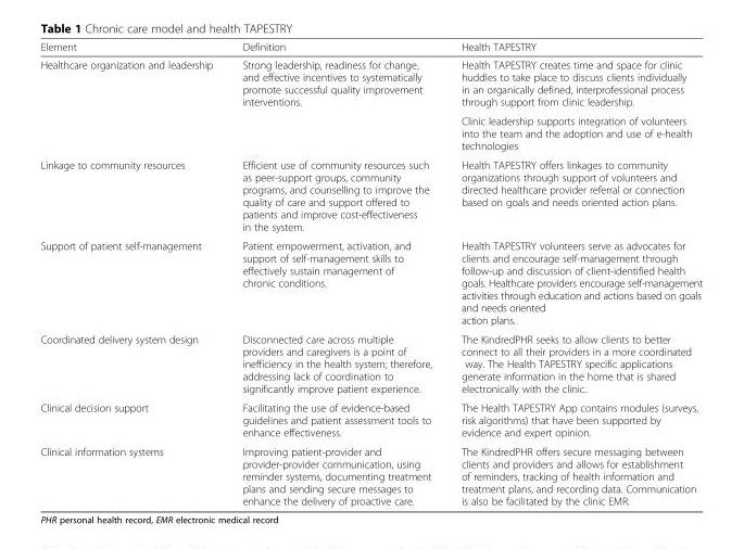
<table><thead><tr><td>Element</td><td>Definition</td><td>Health TAPESTRY</td></tr></thead><tbody><tr><td rowspan="2">Healthcare organization and leadership</td><td rowspan="2">Strong leadership, readiness for change, and effective incentives to systematically promote successful quality improvement interventions.</td><td>Health TAPESTRY creates time and space for clinic huddles to take place to discuss clients individually in an organically defined, interprofessional process through support from clinic leadership.</td></tr><tr><td>Clinic leadership supports integration of volunteers into the team and the adoption and use of e-health technologies</td></tr><tr><td>Linkage to community resources</td><td>Efficient use of community resources such as peer-support groups, community programs, and counselling to improve the quality of care and support offered to patients and improve cost-effectiveness in the system.</td><td>Health TAPESTRY offers linkages to community organizations through support of volunteers and directed healthcare provider referral or connection based on goals and needs oriented action plans.</td></tr><tr><td>Support of patient self-management</td><td>Patient empowerment, activation, and support of self-management skills to effectively sustain management of chronic conditions.</td><td>Health TAPESTRY volunteers serve as advocates for clients and encourage self-management through follow-up and discussion of client-identified health goals. Healthcare providers encourage self-management activities through education and actions based on goals and needs oriented action plans.</td></tr><tr><td>Coordinated delivery system design</td><td>Disconnected care across multiple providers and caregivers is a point of inefficiency in the health system; therefore, addressing lack of coordination to significantly improve patient experience.</td><td>The KindredPHR seeks to allow clients to better connect to all their providers in a more coordinated way. The Health TAPESTRY specific applications generate information in the home that is shared electronically with the clinic.</td></tr><tr><td>Clinical decision support</td><td>Facilitating the use of evidence-based guidelines and patient assessment tools to enhance effectiveness.</td><td>The Health TAPESTRY App contains modules (surveys, risk algorithms) that have been supported by evidence and expert opinion.</td></tr><tr><td>Clinical information systems</td><td>Improving patient-provider and provider-provider communication, using reminder systems, documenting treatment plans and sending secure messages to enhance the delivery of proactive care.</td><td>The KindredPHR offers secure messaging between clients and providers and allows for establishment of reminders, tracking of health information and treatment plans, and recording data. Communication is also be facilitated by the clinic EMR.</td></tr></tbody></table>